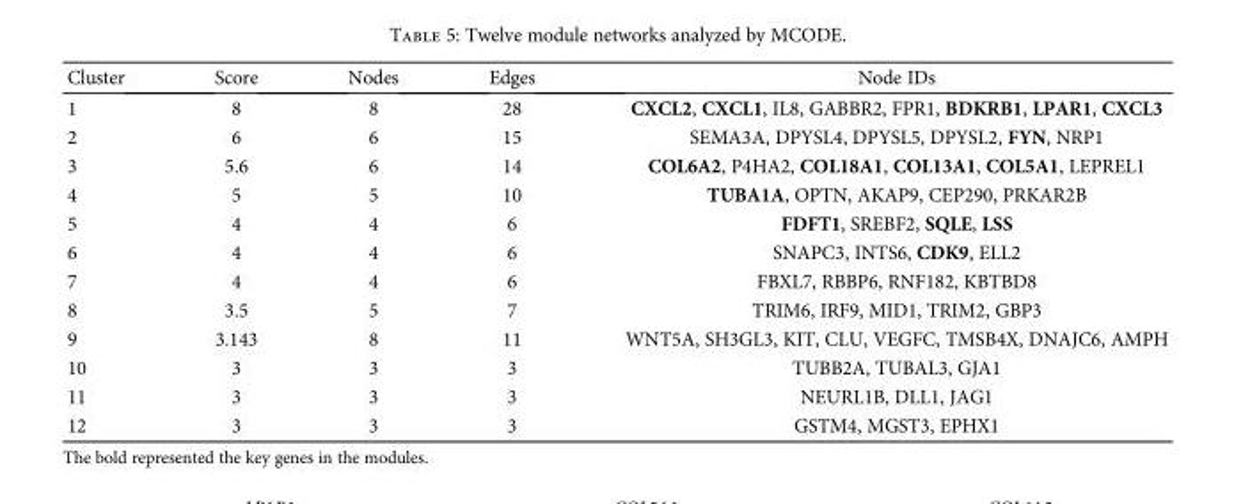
<table><thead><tr><td>Cluster</td><td>Score</td><td>Nodes</td><td>Edges</td><td>Node IDs</td></tr></thead><tbody><tr><td>1</td><td>8</td><td>8</td><td>28</td><td>CXCL2, CXCL1, IL8, GABBR2, FPR1, BDKRB1, LPAR1, CXCL3</td></tr><tr><td>2</td><td>6</td><td>6</td><td>15</td><td>SEMA3A, DPYSL4, DPYSL5, DPYSL2, FYN, NRP1</td></tr><tr><td>3</td><td>5.6</td><td>6</td><td>14</td><td>COL6A2, P4HA2, COL18A1, COL13A1, COL5A1, LEPREL1</td></tr><tr><td>4</td><td>5</td><td>5</td><td>10</td><td>TUBA1A, OPTN, AKAP9, CEP290, PRKAR2B</td></tr><tr><td>5</td><td>4</td><td>4</td><td>6</td><td>FDFT1, SREBF2, SQLE, LSS</td></tr><tr><td>6</td><td>4</td><td>4</td><td>6</td><td>SNAPC3, INTS6, CDK9, ELL2</td></tr><tr><td>7</td><td>4</td><td>4</td><td>6</td><td>FBXL7, RBBP6, RNF182, KBTBD8</td></tr><tr><td>8</td><td>3.5</td><td>5</td><td>7</td><td>TRIM6, IRF9, MID1, TRIM2, GBP3</td></tr><tr><td>9</td><td>3.143</td><td>8</td><td>11</td><td>WNT5A, SH3GL3, KIT, CLU, VEGFC, TMSB4X, DNAJC6, AMPH</td></tr><tr><td>10</td><td>3</td><td>3</td><td>3</td><td>TUBB2A, TUBAL3, GJA1</td></tr><tr><td>11</td><td>3</td><td>3</td><td>3</td><td>NEURL1B, DLL1, JAG1</td></tr><tr><td>12</td><td>3</td><td>3</td><td>3</td><td>GSTM4, MGST3, EPHX1</td></tr></tbody></table>